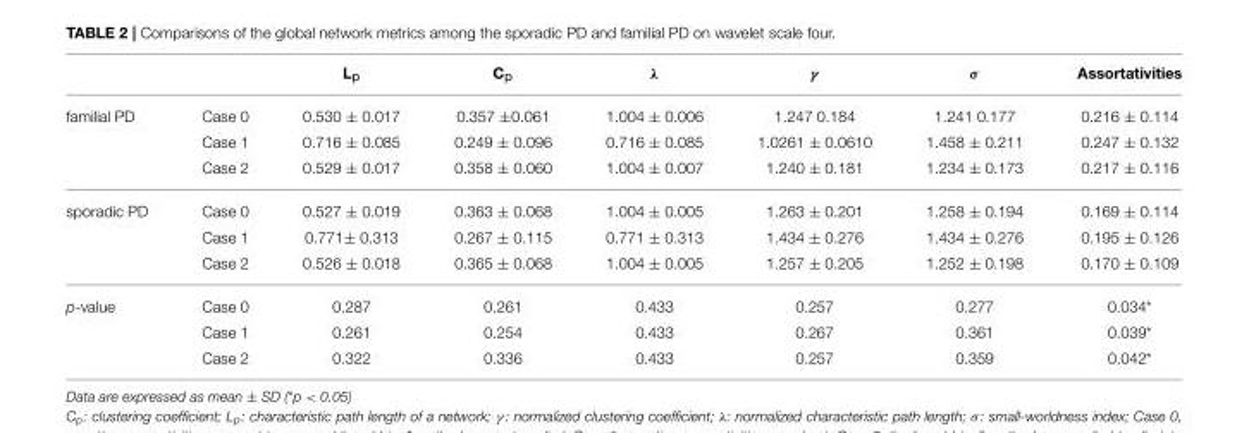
<table><thead><tr><td></td><td></td><td>L<sub>p</sub></td><td>C<sub>p</sub></td><td>λ</td><td>γ</td><td>σ</td><td>Assortativities</td></tr></thead><tbody><tr><td rowspan="3">familial PD</td><td>Case 0</td><td>0.530 ± 0.017</td><td>0.357 ±0.061</td><td>1.004 ± 0.006</td><td>1.247 0.184</td><td>1.241 0.177</td><td>0.216 ± 0.114</td></tr><tr><td>Case 1</td><td>0.716 ± 0.085</td><td>0.249 ± 0.096</td><td>0.716 ± 0.085</td><td>1.0261 ± 0.0610</td><td>1.458 ± 0.211</td><td>0.247 ± 0.132</td></tr><tr><td>Case 2</td><td>0.529 ± 0.017</td><td>0.358 ± 0.060</td><td>1.004 ± 0.007</td><td>1.240 ± 0.181</td><td>1.234 ± 0.173</td><td>0.217 ± 0.116</td></tr><tr><td rowspan="3">sporadic PD</td><td>Case 0</td><td>0.527 ± 0.019</td><td>0.363 ± 0.068</td><td>1.004 ± 0.005</td><td>1.263 ± 0.201</td><td>1.258 ± 0.194</td><td>0.169 ± 0.114</td></tr><tr><td>Case 1</td><td>0.771± 0.313</td><td>0.267 ± 0.115</td><td>0.771 ± 0.313</td><td>1.434 ± 0.276</td><td>1.434 ± 0.276</td><td>0.195 ± 0.126</td></tr><tr><td>Case 2</td><td>0.526 ± 0.018</td><td>0.365 ± 0.068</td><td>1.004 ± 0.005</td><td>1.257 ± 0.205</td><td>1.252 ± 0.198</td><td>0.170 ± 0.109</td></tr><tr><td rowspan="3">p-value</td><td>Case 0</td><td>0.287</td><td>0.261</td><td>0.433</td><td>0.257</td><td>0.277</td><td>0.034*</td></tr><tr><td>Case 1</td><td>0.261</td><td>0.254</td><td>0.433</td><td>0.267</td><td>0.361</td><td>0.039*</td></tr><tr><td>Case 2</td><td>0.322</td><td>0.336</td><td>0.433</td><td>0.257</td><td>0.359</td><td>0.042*</td></tr></tbody></table>